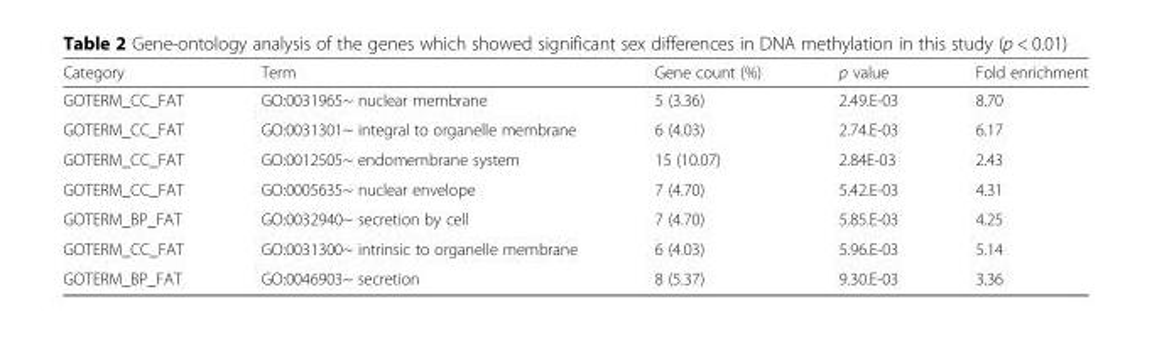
<table><thead><tr><td>Category</td><td>Term</td><td>Gene count (%)</td><td>p value</td><td>Fold enrichment</td></tr></thead><tbody><tr><td>GOTERM_CC_FAT</td><td>GO:0031965~ nuclear membrane</td><td>5 (3.36)</td><td>2.49.E-03</td><td>8.70</td></tr><tr><td>GOTERM_CC_FAT</td><td>GO:0031301~ integral to organelle membrane</td><td>6 (4.03)</td><td>2.74.E-03</td><td>6.17</td></tr><tr><td>GOTERM_CC_FAT</td><td>GO:0012505~ endomembrane system</td><td>15 (10.07)</td><td>2.84E-03</td><td>2.43</td></tr><tr><td>GOTERM_CC_FAT</td><td>GO:0005635~ nuclear envelope</td><td>7 (4.70)</td><td>5.42.E-03</td><td>4.31</td></tr><tr><td>GOTERM_BP_FAT</td><td>GO:0032940~ secretion by cell</td><td>7 (4.70)</td><td>5.85.E-03</td><td>4.25</td></tr><tr><td>GOTERM_CC_FAT</td><td>GO:0031300~ intrinsic to organelle membrane</td><td>6 (4.03)</td><td>5.96.E-03</td><td>5.14</td></tr><tr><td>GOTERM_BP_FAT</td><td>GO:0046903~ secretion</td><td>8 (5.37)</td><td>9.30.E-03</td><td>3.36</td></tr></tbody></table>